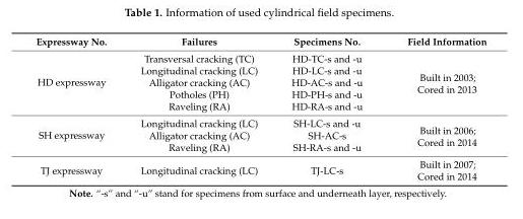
<table><thead><tr><td>Expressway No.</td><td>Failures</td><td>Specimens No.</td><td>Field Information</td></tr></thead><tbody><tr><td rowspan="5">HD expressway</td><td>Transversal cracking (TC)</td><td>HD-TC-s and -u</td><td rowspan="5">Built in 2003; Cored in 2013</td></tr><tr><td>Longitudinal cracking (LC)</td><td>HD-LC-s and -u</td></tr><tr><td>Alligator cracking (AC)</td><td>HD-AC-s and -u</td></tr><tr><td>Potholes (PH)</td><td>HD-PH-s and -u</td></tr><tr><td>Raveling (RA)</td><td>HD-RA-s and -u</td></tr><tr><td rowspan="3">SH expressway</td><td>Longitudinal cracking (LC)</td><td>SH-LC-s and -u</td><td rowspan="3">Built in 2006; Cored in 2014</td></tr><tr><td>Alligator cracking (AC)</td><td>SH-AC-s</td></tr><tr><td>Raveling (RA)</td><td>SH-RA-s and -u</td></tr><tr><td>TJ expressway</td><td>Longitudinal cracking (LC)</td><td>TJ-LC-s</td><td>Built in 2007; Cored in 2014</td></tr></tbody></table>